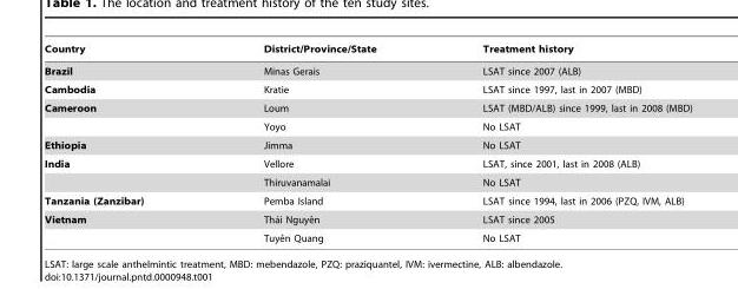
<table><thead><tr><td>Country</td><td>District/Province/State</td><td>Treatment history</td></tr></thead><tbody><tr><td>Brazil</td><td>Minas Gerais</td><td>LSAT since 2007 (ALB)</td></tr><tr><td>Cambodia</td><td>Kratie</td><td>LSAT since 1997, last in 2007 (MBD)</td></tr><tr><td rowspan="2">Cameroon</td><td>Loum</td><td>LSAT (MBD/ALB) since 1999, last in 2008 (MBD)</td></tr><tr><td>Yoyo</td><td>No LSAT</td></tr><tr><td>Ethiopia</td><td>Jimma</td><td>No LSAT</td></tr><tr><td rowspan="2">India</td><td>Vellore</td><td>LSAT, since 2001, last in 2008 (ALB)</td></tr><tr><td>Thiruvanamalai</td><td>No LSAT</td></tr><tr><td>Tanzania (Zanzibar)</td><td>Pemba Island</td><td>LSAT since 1994, last in 2006 (PZQ, IVM, ALB)</td></tr><tr><td rowspan="2">Vietnam</td><td>Tha´i Nguyeˆn</td><td>LSAT since 2005</td></tr><tr><td>Tuyeˆn Quang</td><td>No LSAT</td></tr></tbody></table>